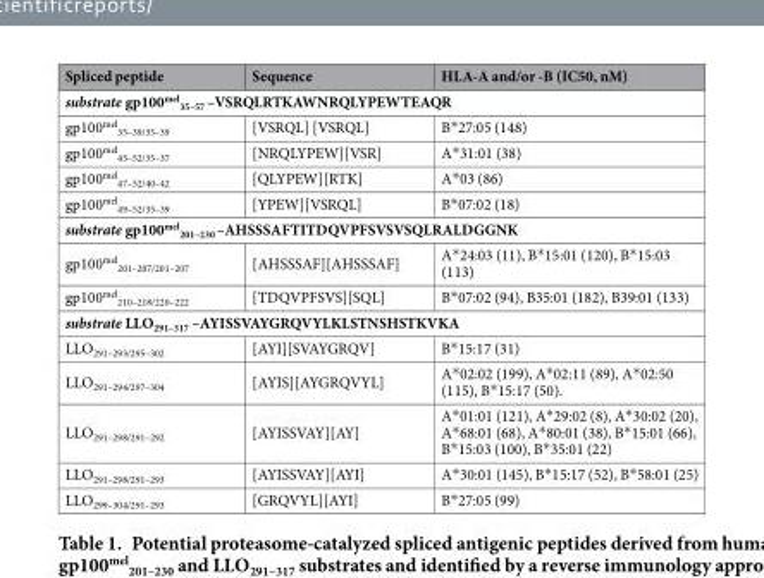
<table><thead><tr><td>Spliced peptide</td><td>Sequence</td><td>HLA-A and/or -B (IC50, nM)</td></tr></thead><tbody><tr><td colspan="3">substrate gp100<sup>mel</sup> <sub>35–57</sub> –VSRQLRTKAWNRQLYPEWTEAQR</td></tr><tr><td>gp100<sup>mel</sup> <sub>35–39/35–39</sub></td><td>[VSRQL] [VSRQL]</td><td>B*27:05 (148)</td></tr><tr><td>gp100<sup>mel</sup> <sub>45–52/35–37</sub></td><td>[NRQLYPEW][VSR]</td><td>A*31:01 (38)</td></tr><tr><td>gp100<sup>mel</sup> <sub>47–52/40–42</sub></td><td>[QLYPEW][RTK]</td><td>A*03 (86)</td></tr><tr><td>gp100<sup>mel</sup> <sub>49–52/35–39</sub></td><td>[YPEW][VSRQL]</td><td>B*07:02 (18)</td></tr><tr><td colspan="3">substrate gp100<sup>mel</sup> <sub>201–230</sub> –AHSSSAFTITDQVPFSVSVSQLRALDGGNK</td></tr><tr><td>gp100<sup>mel</sup> <sub>201–207/201–207</sub></td><td>[AHSSSAF][AHSSSAF]</td><td>A*24:03 (11), B*15:01 (120), B*15:03 (113)</td></tr><tr><td>gp100<sup>mel</sup> <sub>210–218/220–222</sub></td><td>[TDQVPFSVS][SQL]</td><td>B*07:02 (94), B35:01 (182), B39:01 (133)</td></tr><tr><td colspan="3">substrate LLO<sub>291–317</sub> –AYISSVAYGRQVYLKLSTNSHSTKVKA</td></tr><tr><td>LLO<sub>291–293/295–302</sub></td><td>[AYI][SVAYGRQV]</td><td>B*15:17 (31)</td></tr><tr><td>LLO<sub>291–294/297–304</sub></td><td>[AYIS][AYGRQVYL]</td><td>A*02:02 (199), A*02:11 (89), A*02:50 (115), B*15:17 (50).</td></tr><tr><td>LLO<sub>291–298/291–292</sub></td><td>[AYISSVAY][AY]</td><td>A*01:01 (121), A*29:02 (8), A*30:02 (20), A*68:01 (68), A*80:01 (38), B*15:01 (66), B*15:03 (100), B*35:01 (22)</td></tr><tr><td>LLO<sub>291–298/291–293</sub></td><td>[AYISSVAY][AYI]</td><td>A*30:01 (145), B*15:17 (52), B*58:01 (25)</td></tr><tr><td>LLO<sub>299–304/291–293</sub></td><td>[GRQVYL][AYI]</td><td>B*27:05 (99)</td></tr></tbody></table>